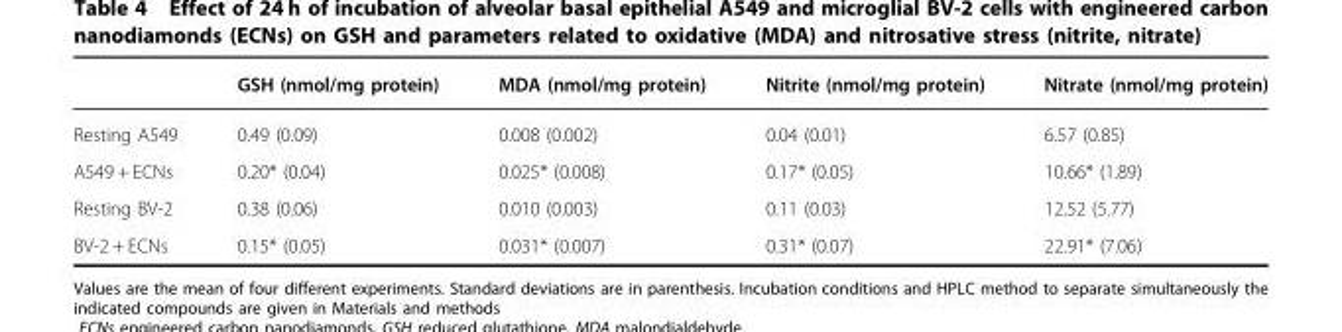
<table><thead><tr><td></td><td>GSH (nmol/mg protein)</td><td>MDA (nmol/mg protein)</td><td>Nitrite (nmol/mg protein)</td><td>Nitrate (nmol/mg protein)</td></tr></thead><tbody><tr><td>Resting A549</td><td>0.49 (0.09)</td><td>0.008 (0.002)</td><td>0.04 (0.01)</td><td>6.57 (0.85)</td></tr><tr><td>A549 + ECNs</td><td>0.20* (0.04)</td><td>0.025* (0.008)</td><td>0.17* (0.05)</td><td>10.66* (1.89)</td></tr><tr><td>Resting BV-2</td><td>0.38 (0.06)</td><td>0.010 (0.003)</td><td>0.11 (0.03)</td><td>12.52 (5.77)</td></tr><tr><td>BV-2 + ECNs</td><td>0.15* (0.05)</td><td>0.031* (0.007)</td><td>0.31* (0.07)</td><td>22.91* (7.06)</td></tr></tbody></table>